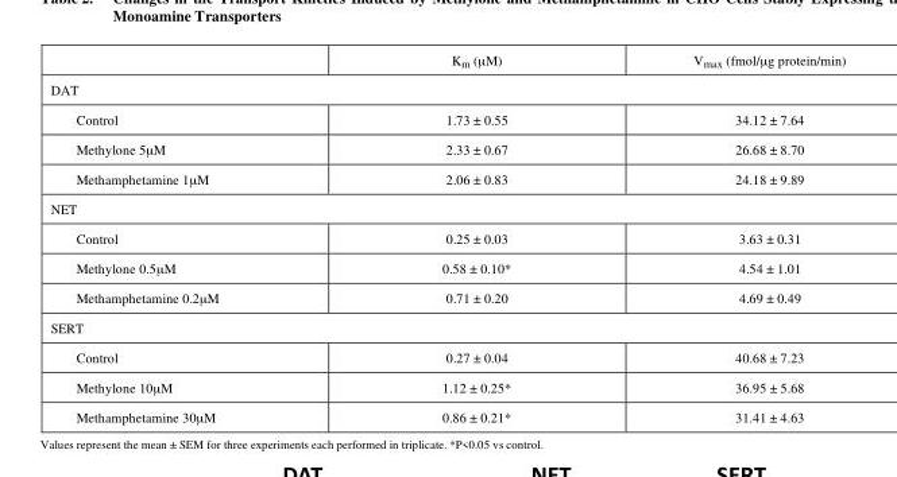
<table><thead><tr><td></td><td>K<sub>m</sub> (μM)</td><td>V<sub>max</sub> (fmol/μg protein/min)</td></tr></thead><tbody><tr><td colspan="3">DAT</td></tr><tr><td>Control</td><td>1.73 ± 0.55</td><td>34.12 ± 7.64</td></tr><tr><td>Methylone 5μM</td><td>2.33 ± 0.67</td><td>26.68 ± 8.70</td></tr><tr><td>Methamphetamine 1μM</td><td>2.06 ± 0.83</td><td>24.18 ± 9.89</td></tr><tr><td colspan="3">NET</td></tr><tr><td>Control</td><td>0.25 ± 0.03</td><td>3.63 ± 0.31</td></tr><tr><td>Methylone 0.5μM</td><td>0.58 ± 0.10*</td><td>4.54 ± 1.01</td></tr><tr><td>Methamphetamine 0.2μM</td><td>0.71 ± 0.20</td><td>4.69 ± 0.49</td></tr><tr><td colspan="3">SERT</td></tr><tr><td>Control</td><td>0.27 ± 0.04</td><td>40.68 ± 7.23</td></tr><tr><td>Methylone 10μM</td><td>1.12 ± 0.25*</td><td>36.95 ± 5.68</td></tr><tr><td>Methamphetamine 30μM</td><td>0.86 ± 0.21*</td><td>31.41 ± 4.63</td></tr></tbody></table>